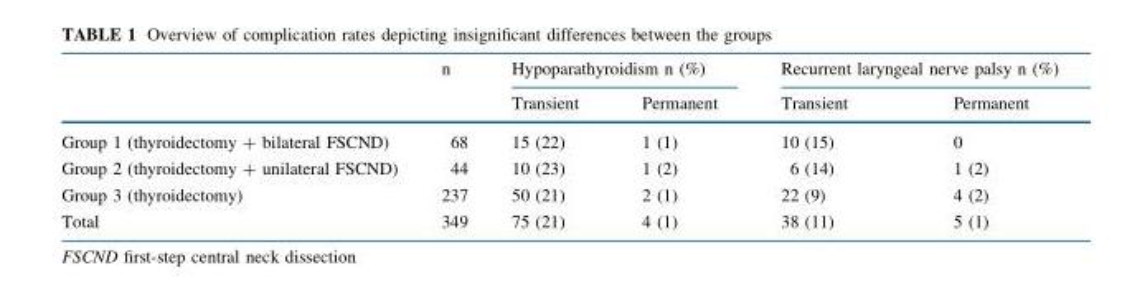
<table><thead><tr><td rowspan="2"></td><td rowspan="2">n</td><td colspan="2">Hypoparathyroidism n (%)</td><td colspan="2">Recurrent laryngeal nerve palsy n (%)</td></tr><tr><td>Transient</td><td>Permanent</td><td>Transient</td><td>Permanent</td></tr></thead><tbody><tr><td>Group 1 (thyroidectomy + bilateral FSCND)</td><td>68</td><td>15 (22)</td><td>1 (1)</td><td>10 (15)</td><td>0</td></tr><tr><td>Group 2 (thyroidectomy + unilateral FSCND)</td><td>44</td><td>10 (23)</td><td>1 (2)</td><td>6 (14)</td><td>1 (2)</td></tr><tr><td>Group 3 (thyroidectomy)</td><td>237</td><td>50 (21)</td><td>2 (1)</td><td>22 (9)</td><td>4 (2)</td></tr><tr><td>Total</td><td>349</td><td>75 (21)</td><td>4 (1)</td><td>38 (11)</td><td>5 (1)</td></tr></tbody></table>